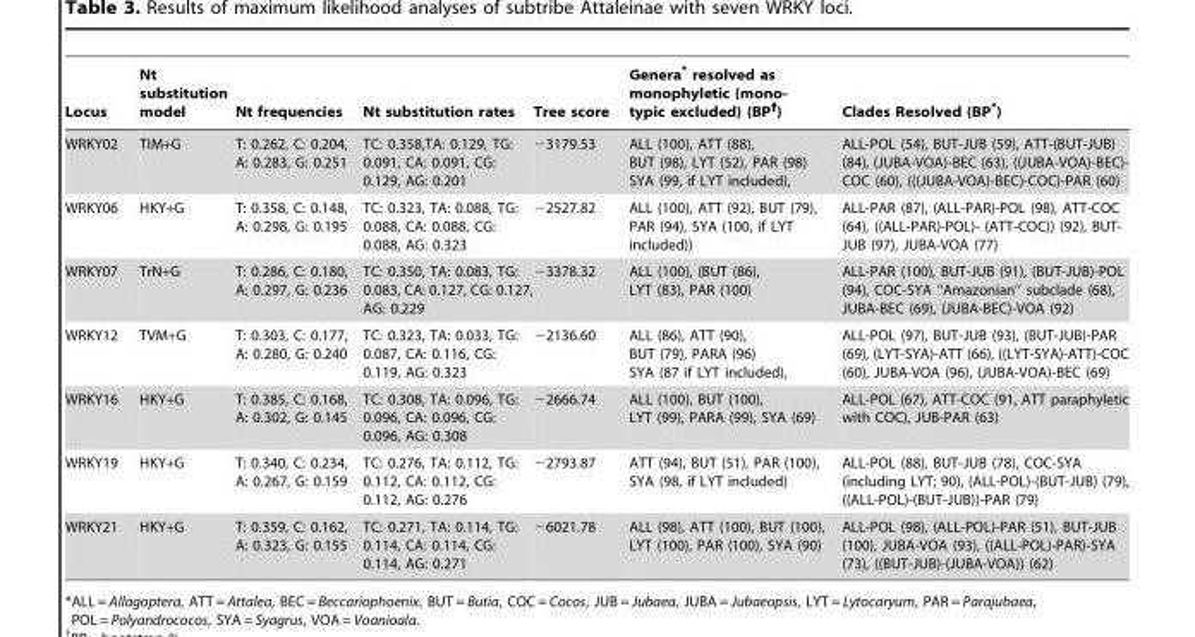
<table><thead><tr><td>Locus</td><td>Nt substitution model</td><td>Nt frequencies</td><td>Nt substitution rates</td><td>Tree score</td><td>Genera* resolved as monophyletic (mono- typic excluded) (BP{)</td><td>Clades Resolved (BP*)</td></tr></thead><tbody><tr><td>WRKY02</td><td>TIM+G</td><td>T: 0.262, C: 0.204, A: 0.283, G: 0.251</td><td>TC: 0.358,TA: 0.129, TG: 0.091, CA: 0.091, CG: 0.129, AG: 0.201</td><td>−3179.53</td><td>ALL (100), ATT (88), BUT (98), LYT (52), PAR (98) SYA (99, if LYT included),</td><td>ALL-POL (54), BUT-JUB (59), ATT-(BUT-JUB) (84), (JUBA-VOA)-BEC (63), ((JUBA-VOA)-BEC)- COC (60), (((JUBA-VOA)-BEC)-COC)-PAR (60)</td></tr><tr><td>WRKY06</td><td>HKY+G</td><td>T: 0.358, C: 0.148, A: 0.298, G: 0.195</td><td>TC: 0.323, TA: 0.088, TG: 0.088, CA: 0.088, CG: 0.088, AG: 0.323</td><td>−2527.82</td><td>ALL (100), ATT (92), BUT (79), PAR (94), SYA (100, if LYT included))</td><td>ALL-PAR (87), (ALL-PAR)-POL (98), ATT-COC (64), ((ALL-PAR)-POL)- (ATT-COC)) (92), BUT- JUB (97), JUBA-VOA (77)</td></tr><tr><td>WRKY07</td><td>TrN+G</td><td>T: 0.286, C: 0.180, A: 0.297, G: 0.236</td><td>TC: 0.350, TA: 0.083, TG: 0.083, CA: 0.127, CG: 0.127, AG: 0.229</td><td>−3378.32</td><td>ALL (100), (BUT (86), LYT (83), PAR (100)</td><td>ALL-PAR (100), BUT-JUB (91), (BUT-JUB)-POL (94), COC-SYA ‘‘Amazonian’’ subclade (68), JUBA-BEC (69), (JUBA-BEC)-VOA (92)</td></tr><tr><td>WRKY12</td><td>TVM+G</td><td>T: 0.303, C: 0.177, A: 0.280, G: 0.240</td><td>TC: 0.323, TA: 0.033, TG: 0.087, CA: 0.116, CG: 0.119, AG: 0.323</td><td>−2136.60</td><td>ALL (86), ATT (90), BUT (79), PARA (96) SYA (87 if LYT included),</td><td>ALL-POL (97), BUT-JUB (93), (BUT-JUB)-PAR (69), (LYT-SYA)-ATT (66), ((LYT-SYA)-ATT)-COC (60), JUBA-VOA (96), (JUBA-VOA)-BEC (69)</td></tr><tr><td>WRKY16</td><td>HKY+G</td><td>T: 0.385, C: 0.168, A: 0.302, G: 0.145</td><td>TC: 0.308, TA: 0.096, TG: 0.096, CA: 0.096, CG: 0.096, AG: 0.308</td><td>−2666.74</td><td>ALL (100), BUT (100), LYT (99), PARA (99), SYA (69)</td><td>ALL-POL (67), ATT-COC (91, ATT paraphyletic with COC), JUB-PAR (63)</td></tr><tr><td>WRKY19</td><td>HKY+G</td><td>T: 0.340, C: 0.234, A: 0.267, G: 0.159</td><td>TC: 0.276, TA: 0.112, TG: 0.112, CA: 0.112, CG: 0.112, AG: 0.276</td><td>−2793.87</td><td>ATT (94), BUT (51), PAR (100), SYA (98, if LYT included)</td><td>ALL-POL (88), BUT-JUB (78), COC-SYA (including LYT; 90), (ALL-POL)-(BUT-JUB) (79), ((ALL-POL)-(BUT-JUB))-PAR (79)</td></tr><tr><td>WRKY21</td><td>HKY+G</td><td>T: 0.359, C: 0.162, A: 0.323, G: 0.155</td><td>TC: 0.271, TA: 0.114, TG: 0.114, CA: 0.114, CG: 0.114, AG: 0.271</td><td>−6021.78</td><td>ALL (98), ATT (100), BUT (100), LYT (100), PAR (100), SYA (90)</td><td>ALL-POL (98), (ALL-POL)-PAR (51), BUT-JUB (100), JUBA-VOA (93), ((ALL-POL)-PAR)-SYA (73), ((BUT-JUB)-(JUBA-VOA)) (62)</td></tr></tbody></table>